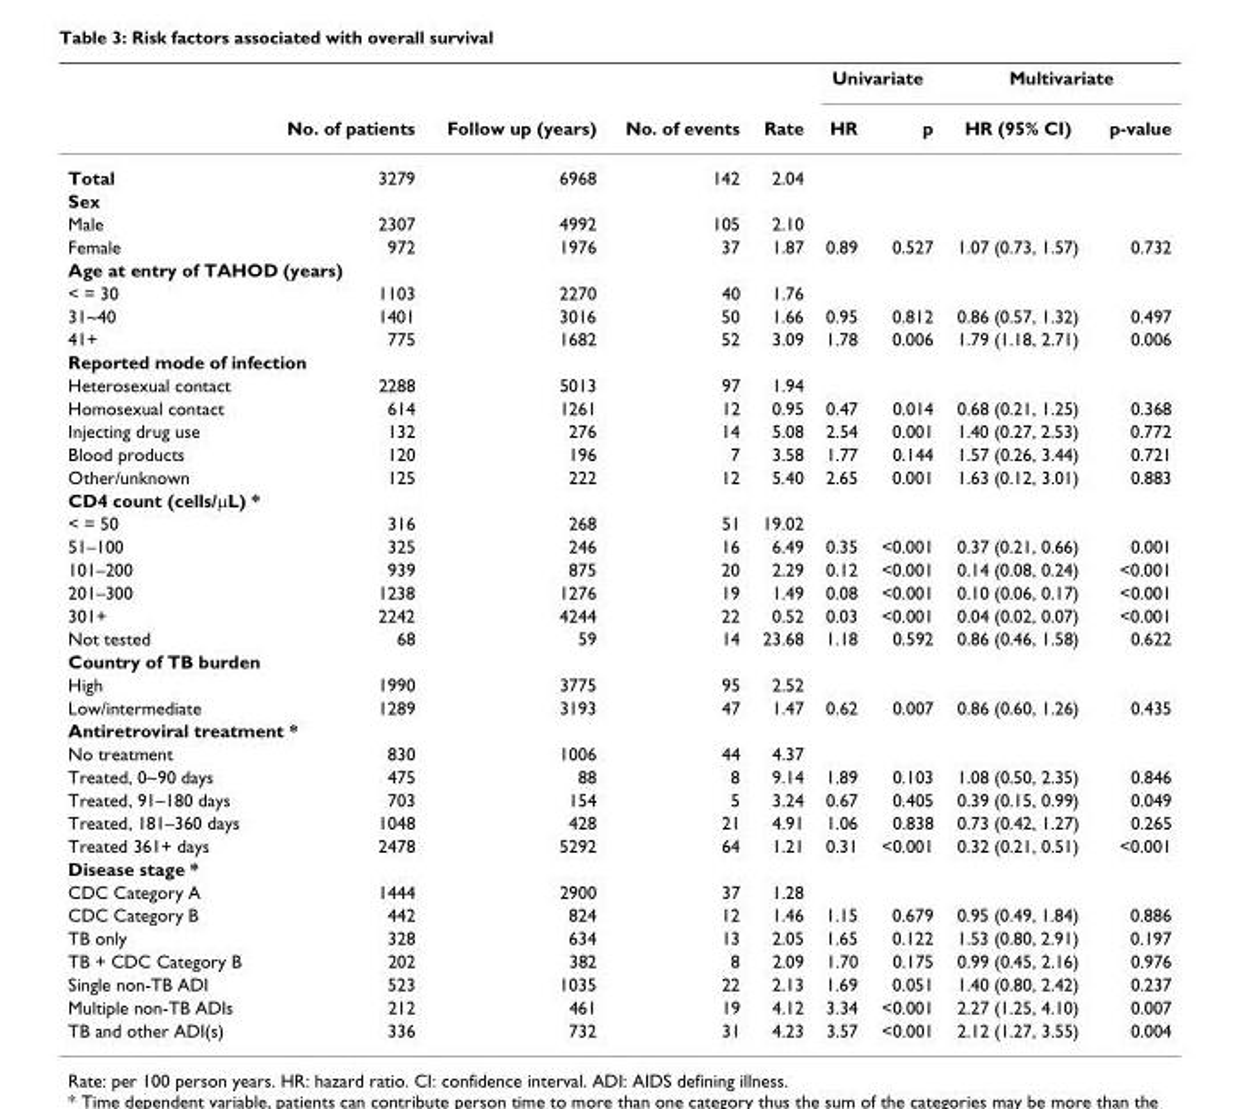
<table><thead><tr><td rowspan="2"></td><td rowspan="2">No. of patients</td><td rowspan="2">Follow up (years)</td><td rowspan="2">No. of events</td><td rowspan="2">Rate</td><td colspan="2">Univariate</td><td colspan="2">Multivariate</td></tr><tr><td>HR</td><td>p</td><td>HR (95% CI)</td><td>p-value</td></tr></thead><tbody><tr><td>Total</td><td>3279</td><td>6968</td><td>142</td><td>2.04</td><td></td><td></td><td></td><td></td></tr><tr><td colspan="9">Sex</td></tr><tr><td>Male</td><td>2307</td><td>4992</td><td>105</td><td>2.10</td><td></td><td></td><td></td><td></td></tr><tr><td>Female</td><td>972</td><td>1976</td><td>37</td><td>1.87</td><td>0.89</td><td>0.527</td><td>1.07 (0.73, 1.57)</td><td>0.732</td></tr><tr><td colspan="9">Age at entry of TAHOD (years)</td></tr><tr><td>&lt; = 30</td><td>1103</td><td>2270</td><td>40</td><td>1.76</td><td></td><td></td><td></td><td></td></tr><tr><td>31~40</td><td>1401</td><td>3016</td><td>50</td><td>1.66</td><td>0.95</td><td>0.812</td><td>0.86 (0.57, 1.32)</td><td>0.497</td></tr><tr><td>41+</td><td>775</td><td>1682</td><td>52</td><td>3.09</td><td>1.78</td><td>0.006</td><td>1.79 (1.18, 2.71)</td><td>0.006</td></tr><tr><td colspan="9">Reported mode of infection</td></tr><tr><td>Heterosexual contact</td><td>2288</td><td>5013</td><td>97</td><td>1.94</td><td></td><td></td><td></td><td></td></tr><tr><td>Homosexual contact</td><td>614</td><td>1261</td><td>12</td><td>0.95</td><td>0.47</td><td>0.014</td><td>0.68 (0.21, 1.25)</td><td>0.368</td></tr><tr><td>Injecting drug use</td><td>132</td><td>276</td><td>14</td><td>5.08</td><td>2.54</td><td>0.001</td><td>1.40 (0.27, 2.53)</td><td>0.772</td></tr><tr><td>Blood products</td><td>120</td><td>196</td><td>7</td><td>3.58</td><td>1.77</td><td>0.144</td><td>1.57 (0.26, 3.44)</td><td>0.721</td></tr><tr><td>Other/unknown</td><td>125</td><td>222</td><td>12</td><td>5.40</td><td>2.65</td><td>0.001</td><td>1.63 (0.12, 3.01)</td><td>0.883</td></tr><tr><td colspan="9">CD4 count (cells/μL) *</td></tr><tr><td>&lt; = 50</td><td>316</td><td>268</td><td>51</td><td>19.02</td><td></td><td></td><td></td><td></td></tr><tr><td>51–100</td><td>325</td><td>246</td><td>16</td><td>6.49</td><td>0.35</td><td>&lt;0.001</td><td>0.37 (0.21, 0.66)</td><td>0.001</td></tr><tr><td>101–200</td><td>939</td><td>875</td><td>20</td><td>2.29</td><td>0.12</td><td>&lt;0.001</td><td>0.14 (0.08, 0.24)</td><td>&lt;0.001</td></tr><tr><td>201–300</td><td>1238</td><td>1276</td><td>19</td><td>1.49</td><td>0.08</td><td>&lt;0.001</td><td>0.10 (0.06, 0.17)</td><td>&lt;0.001</td></tr><tr><td>301+</td><td>2242</td><td>4244</td><td>22</td><td>0.52</td><td>0.03</td><td>&lt;0.001</td><td>0.04 (0.02, 0.07)</td><td>&lt;0.001</td></tr><tr><td>Not tested</td><td>68</td><td>59</td><td>14</td><td>23.68</td><td>1.18</td><td>0.592</td><td>0.86 (0.46, 1.58)</td><td>0.622</td></tr><tr><td colspan="9">Country of TB burden</td></tr><tr><td>High</td><td>1990</td><td>3775</td><td>95</td><td>2.52</td><td></td><td></td><td></td><td></td></tr><tr><td>Low/intermediate</td><td>1289</td><td>3193</td><td>47</td><td>1.47</td><td>0.62</td><td>0.007</td><td>0.86 (0.60, 1.26)</td><td>0.435</td></tr><tr><td colspan="9">Antiretroviral treatment *</td></tr><tr><td>No treatment</td><td>830</td><td>1006</td><td>44</td><td>4.37</td><td></td><td></td><td></td><td></td></tr><tr><td>Treated, 0~90 days</td><td>475</td><td>88</td><td>8</td><td>9.14</td><td>1.89</td><td>0.103</td><td>1.08 (0.50, 2.35)</td><td>0.846</td></tr><tr><td>Treated, 91–180 days</td><td>703</td><td>154</td><td>5</td><td>3.24</td><td>0.67</td><td>0.405</td><td>0.39 (0.15, 0.99)</td><td>0.049</td></tr><tr><td>Treated, 181–360 days</td><td>1048</td><td>428</td><td>21</td><td>4.91</td><td>1.06</td><td>0.838</td><td>0.73 (0.42, 1.27)</td><td>0.265</td></tr><tr><td>Treated 361+ days</td><td>2478</td><td>5292</td><td>64</td><td>1.21</td><td>0.31</td><td>&lt;0.001</td><td>0.32 (0.21, 0.51)</td><td>&lt;0.001</td></tr><tr><td colspan="9">Disease stage *</td></tr><tr><td>CDC Category A</td><td>1444</td><td>2900</td><td>37</td><td>1.28</td><td></td><td></td><td></td><td></td></tr><tr><td>CDC Category B</td><td>442</td><td>824</td><td>12</td><td>1.46</td><td>1.15</td><td>0.679</td><td>0.95 (0.49, 1.84)</td><td>0.886</td></tr><tr><td>TB only</td><td>328</td><td>634</td><td>13</td><td>2.05</td><td>1.65</td><td>0.122</td><td>1.53 (0.80, 2.91)</td><td>0.197</td></tr><tr><td>TB + CDC Category B</td><td>202</td><td>382</td><td>8</td><td>2.09</td><td>1.70</td><td>0.175</td><td>0.99 (0.45, 2.16)</td><td>0.976</td></tr><tr><td>Single non-TB ADI</td><td>523</td><td>1035</td><td>22</td><td>2.13</td><td>1.69</td><td>0.051</td><td>1.40 (0.80, 2.42)</td><td>0.237</td></tr><tr><td>Multiple non-TB ADIs</td><td>212</td><td>461</td><td>19</td><td>4.12</td><td>3.34</td><td>&lt;0.001</td><td>2.27 (1.25, 4.10)</td><td>0.007</td></tr><tr><td>TB and other ADI(s)</td><td>336</td><td>732</td><td>31</td><td>4.23</td><td>3.57</td><td>&lt;0.001</td><td>2.12 (1.27, 3.55)</td><td>0.004</td></tr></tbody></table>